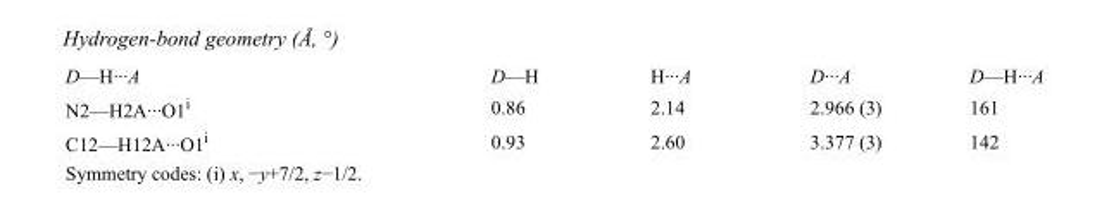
<table><tbody><tr><td>D—H···A</td><td>D—H</td><td>H···A</td><td>D···A</td><td>D—H···A</td></tr><tr><td>N2—H2A···O1<sup>i</sup></td><td>0.86</td><td>2.14</td><td>2.966 (3)</td><td>161</td></tr><tr><td>C12—H12A···O1<sup>i</sup></td><td>0.93</td><td>2.60</td><td>3.377 (3)</td><td>142</td></tr></tbody></table>